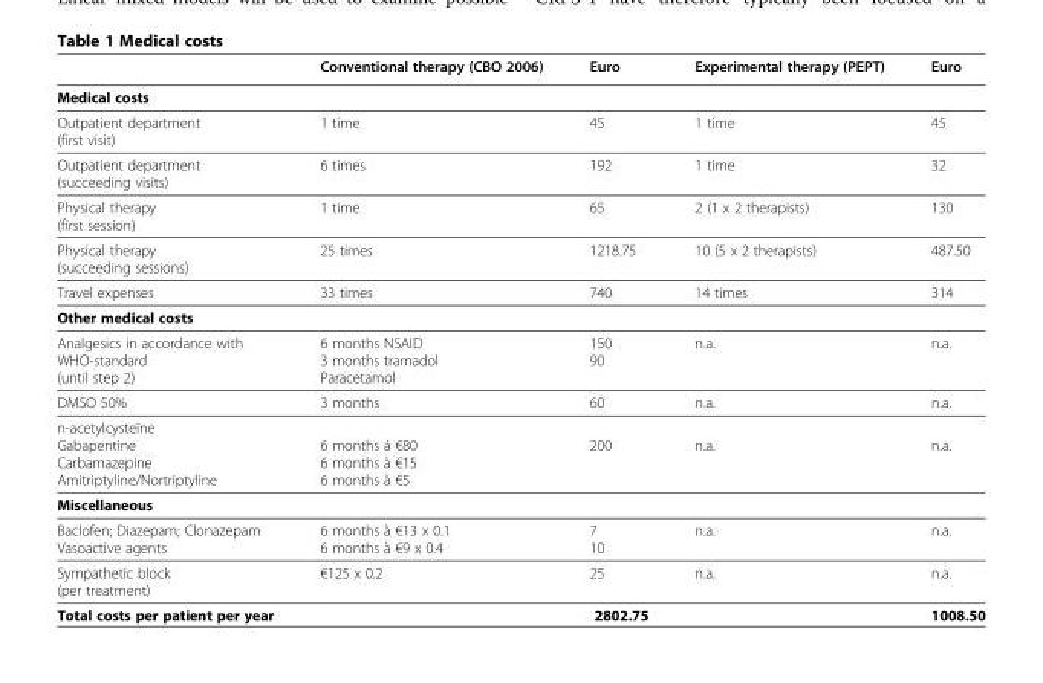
<table><thead><tr><td></td><td>Conventional therapy (CBO 2006)</td><td>Euro</td><td>Experimental therapy (PEPT)</td><td>Euro</td></tr></thead><tbody><tr><td colspan="5">Medical costs</td></tr><tr><td>Outpatient department (first visit)</td><td>1 time</td><td>45</td><td>1 time</td><td>45</td></tr><tr><td>Outpatient department (succeeding visits)</td><td>6 times</td><td>192</td><td>1 time</td><td>32</td></tr><tr><td>Physical therapy (first session)</td><td>1 time</td><td>65</td><td>2 (1 x 2 therapists)</td><td>130</td></tr><tr><td>Physical therapy (succeeding sessions)</td><td>25 times</td><td>1218.75</td><td>10 (5 x 2 therapists)</td><td>487.50</td></tr><tr><td>Travel expenses</td><td>33 times</td><td>740</td><td>14 times</td><td>314</td></tr><tr><td colspan="5">Other medical costs</td></tr><tr><td>Analgesics in accordance with WHO-standard (until step 2)</td><td>6 months NSAID 3 months tramadol Paracetamol</td><td>150 90</td><td>n.a.</td><td>n.a.</td></tr><tr><td>DMSO 50%</td><td>3 months</td><td>60</td><td>n.a.</td><td>n.a.</td></tr><tr><td>n-acetylcysteïne Gabapentine Carbamazepine Amitriptyline/Nortriptyline</td><td>6 months á €80 6 months à €15 6 months à €5</td><td>200</td><td>n.a.</td><td>n.a.</td></tr><tr><td colspan="5">Miscellaneous</td></tr><tr><td>Baclofen; Diazepam; Clonazepam</td><td>6 months à €13 x 0.1</td><td>7</td><td>n.a.</td><td>n.a.</td></tr><tr><td>Vasoactive agents</td><td>6 months à €9 x 0.4</td><td>10</td><td></td><td></td></tr><tr><td>Sympathetic block (per treatment)</td><td>€125 x 0.2</td><td>25</td><td>n.a.</td><td>n.a.</td></tr><tr><td>Total costs per patient per year</td><td></td><td>2802.75</td><td></td><td>1008.50</td></tr></tbody></table>